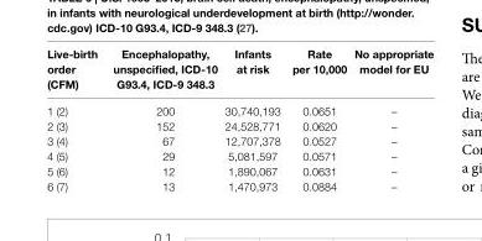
<table><thead><tr><td>live-birth order (cFM)</td><td>encephalopathy, unspecified, icD-10 g93.4, icD-9 348.3</td><td>infants at risk</td><td>rate per 10,000</td><td>no appropriate model for eU</td></tr></thead><tbody><tr><td>1 (2)</td><td>200</td><td>30,740,193</td><td>0.0651</td><td>–</td></tr><tr><td>2 (3)</td><td>152</td><td>24,528,771</td><td>0.0620</td><td>–</td></tr><tr><td>3 (4)</td><td>67</td><td>12,707,378</td><td>0.0527</td><td>–</td></tr><tr><td>4 (5)</td><td>29</td><td>5,081,597</td><td>0.0571</td><td>–</td></tr><tr><td>5 (6)</td><td>12</td><td>1,890,067</td><td>0.0631</td><td>–</td></tr><tr><td>6 (7)</td><td>13</td><td>1,470,973</td><td>0.0884</td><td>–</td></tr></tbody></table>